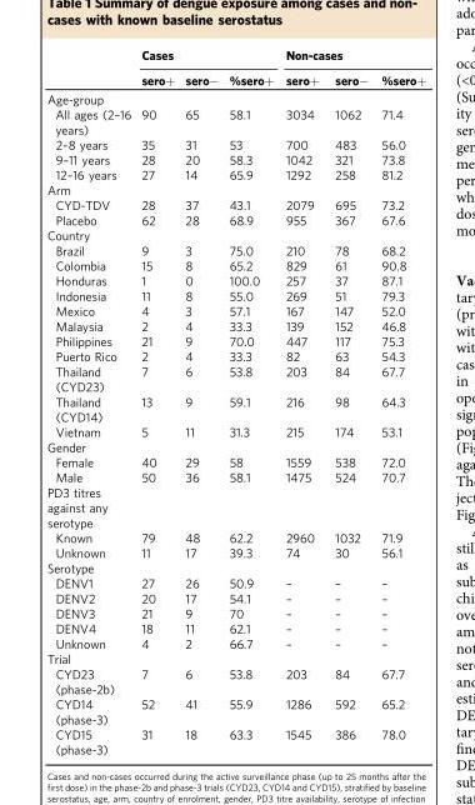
<table><thead><tr><td rowspan="2"></td><td colspan="3">Cases</td><td colspan="3">Non-cases</td></tr><tr><td>sero+</td><td>sero−</td><td>%sero+</td><td>sero+</td><td>sero−</td><td>%sero+</td></tr></thead><tbody><tr><td colspan="7">Age-group</td></tr><tr><td>All ages (2–16 years)</td><td>90</td><td>65</td><td>58.1</td><td>3034</td><td>1062</td><td>71.4</td></tr><tr><td>2–8 years</td><td>35</td><td>31</td><td>53</td><td>700</td><td>483</td><td>56.0</td></tr><tr><td>9–11 years</td><td>28</td><td>20</td><td>58.3</td><td>1042</td><td>321</td><td>73.8</td></tr><tr><td>12–16 years</td><td>27</td><td>14</td><td>65.9</td><td>1292</td><td>258</td><td>81.2</td></tr><tr><td colspan="7">Arm</td></tr><tr><td>CYD-TDV</td><td>28</td><td>37</td><td>43.1</td><td>2079</td><td>695</td><td>73.2</td></tr><tr><td>Placebo</td><td>62</td><td>28</td><td>68.9</td><td>955</td><td>367</td><td>67.6</td></tr><tr><td colspan="7">Country</td></tr><tr><td>Brazil</td><td>9</td><td>3</td><td>75.0</td><td>210</td><td>78</td><td>68.2</td></tr><tr><td>Colombia</td><td>15</td><td>8</td><td>65.2</td><td>829</td><td>61</td><td>90.8</td></tr><tr><td>Honduras</td><td>1</td><td>0</td><td>100.0</td><td>257</td><td>37</td><td>87.1</td></tr><tr><td>Indonesia</td><td>11</td><td>8</td><td>55.0</td><td>269</td><td>51</td><td>79.3</td></tr><tr><td>Mexico</td><td>4</td><td>3</td><td>57.1</td><td>167</td><td>147</td><td>52.0</td></tr><tr><td>Malaysia</td><td>2</td><td>4</td><td>33.3</td><td>139</td><td>152</td><td>46.8</td></tr><tr><td>Philippines</td><td>21</td><td>9</td><td>70.0</td><td>447</td><td>117</td><td>75.3</td></tr><tr><td>Puerto Rico</td><td>2</td><td>4</td><td>33.3</td><td>82</td><td>63</td><td>54.3</td></tr><tr><td>Thailand (CYD23)</td><td>7</td><td>6</td><td>53.8</td><td>203</td><td>84</td><td>67.7</td></tr><tr><td>Thailand (CYD14)</td><td>13</td><td>9</td><td>59.1</td><td>216</td><td>98</td><td>64.3</td></tr><tr><td>Vietnam</td><td>5</td><td>11</td><td>31.3</td><td>215</td><td>174</td><td>53.1</td></tr><tr><td colspan="7">Gender</td></tr><tr><td>Female</td><td>40</td><td>29</td><td>58</td><td>1559</td><td>538</td><td>72.0</td></tr><tr><td>Male</td><td>50</td><td>36</td><td>58.1</td><td>1475</td><td>524</td><td>70.7</td></tr><tr><td colspan="7">PD3 titres against any serotype</td></tr><tr><td>Known</td><td>79</td><td>48</td><td>62.2</td><td>2960</td><td>1032</td><td>71.9</td></tr><tr><td>Unknown</td><td>11</td><td>17</td><td>39.3</td><td>74</td><td>30</td><td>56.1</td></tr><tr><td colspan="7">Serotype</td></tr><tr><td>DENV1</td><td>27</td><td>26</td><td>50.9</td><td>–</td><td>–</td><td>–</td></tr><tr><td>DENV2</td><td>20</td><td>17</td><td>54.1</td><td>–</td><td>–</td><td>–</td></tr><tr><td>DENV3</td><td>21</td><td>9</td><td>70</td><td>–</td><td>–</td><td>–</td></tr><tr><td>DENV4</td><td>18</td><td>11</td><td>62.1</td><td>–</td><td>–</td><td>–</td></tr><tr><td>Unknown</td><td>4</td><td>2</td><td>66.7</td><td>–</td><td>–</td><td>–</td></tr><tr><td colspan="7">Trial</td></tr><tr><td>CYD23 (phase-2b)</td><td>7</td><td>6</td><td>53.8</td><td>203</td><td>84</td><td>67.7</td></tr><tr><td>CYD14 (phase-3)</td><td>52</td><td>41</td><td>55.9</td><td>1286</td><td>592</td><td>65.2</td></tr><tr><td>CYD15 (phase-3)</td><td>31</td><td>18</td><td>63.3</td><td>1545</td><td>386</td><td>78.0</td></tr></tbody></table>